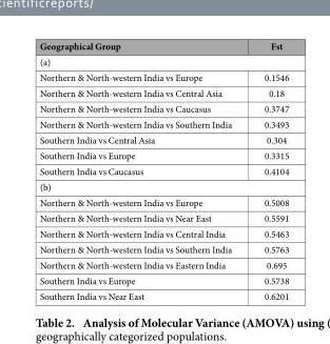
<table><thead><tr><td>Geographical Group</td><td>Fst</td></tr></thead><tbody><tr><td colspan="2">(a)</td></tr><tr><td>Northern &amp; North-western India vs Europe</td><td>0.1546</td></tr><tr><td>Northern &amp; North-western India vs Central Asia</td><td>0.18</td></tr><tr><td>Northern &amp; North-western India vs Caucasus</td><td>0.3747</td></tr><tr><td>Northern &amp; North-western India vs Southern India</td><td>0.3493</td></tr><tr><td>Southern India vs Central Asia</td><td>0.304</td></tr><tr><td>Southern India vs Europe</td><td>0.3315</td></tr><tr><td>Southern India vs Caucasus</td><td>0.4104</td></tr><tr><td colspan="2">(b)</td></tr><tr><td>Northern &amp; North-western India vs Europe</td><td>0.5008</td></tr><tr><td>Northern &amp; North-western India vs Near East</td><td>0.5591</td></tr><tr><td>Northern &amp; North-western India vs Central India</td><td>0.5463</td></tr><tr><td>Northern &amp; North-western India vs Southern India</td><td>0.5763</td></tr><tr><td>Northern &amp; North-western India vs Eastern India</td><td>0.695</td></tr><tr><td>Southern India vs Europe</td><td>0.5738</td></tr><tr><td>Southern India vs Near East</td><td>0.6201</td></tr></tbody></table>